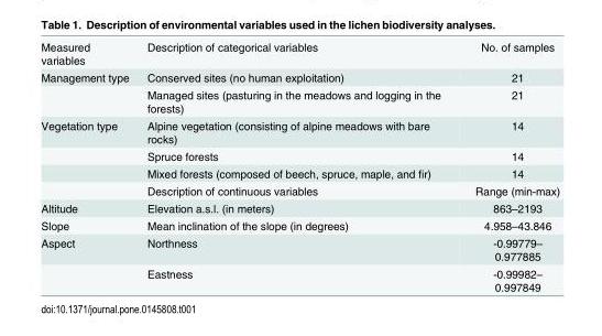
<table><tbody><tr><td>Measured variables</td><td>Description of categorical variables</td><td>No. of samples</td></tr><tr><td rowspan="2">Management type</td><td>Conserved sites (no human exploitation)</td><td>21</td></tr><tr><td>Managed sites (pasturing in the meadows and logging in the forests)</td><td>21</td></tr><tr><td rowspan="4">Vegetation type</td><td>Alpine vegetation (consisting of alpine meadows with bare rocks)</td><td>14</td></tr><tr><td>Spruce forests</td><td>14</td></tr><tr><td>Mixed forests (composed of beech, spruce, maple, and fir)</td><td>14</td></tr><tr><td>Description of continuous variables</td><td>Range (min-max)</td></tr><tr><td>Altitude</td><td>Elevation a.s.l. (in meters)</td><td>863–2193</td></tr><tr><td>Slope</td><td>Mean inclination of the slope (in degrees)</td><td>4.958–43.846</td></tr><tr><td rowspan="2">Aspect</td><td>Northness</td><td>-0.99779– 0.977885</td></tr><tr><td>Eastness</td><td>-0.99982– 0.997849</td></tr></tbody></table>